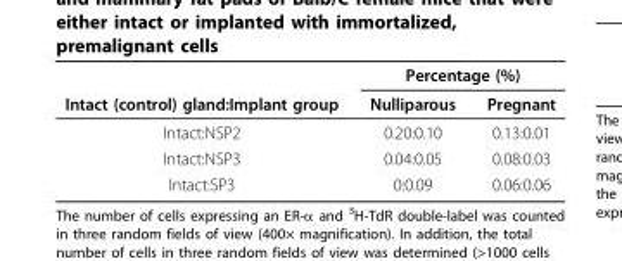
<table><thead><tr><td rowspan="2">Intact (control) gland:Implant group</td><td colspan="2">Percentage (%)</td></tr><tr><td>Nulliparous</td><td>Pregnant</td></tr></thead><tbody><tr><td>Intact:NSP2</td><td>0.20:0.10</td><td>0.13:0.01</td></tr><tr><td>Intact:NSP3</td><td>0.04:0.05</td><td>0.08:0.03</td></tr><tr><td>Intact:SP3</td><td>0:0.09</td><td>0.06:0.06</td></tr></tbody></table>